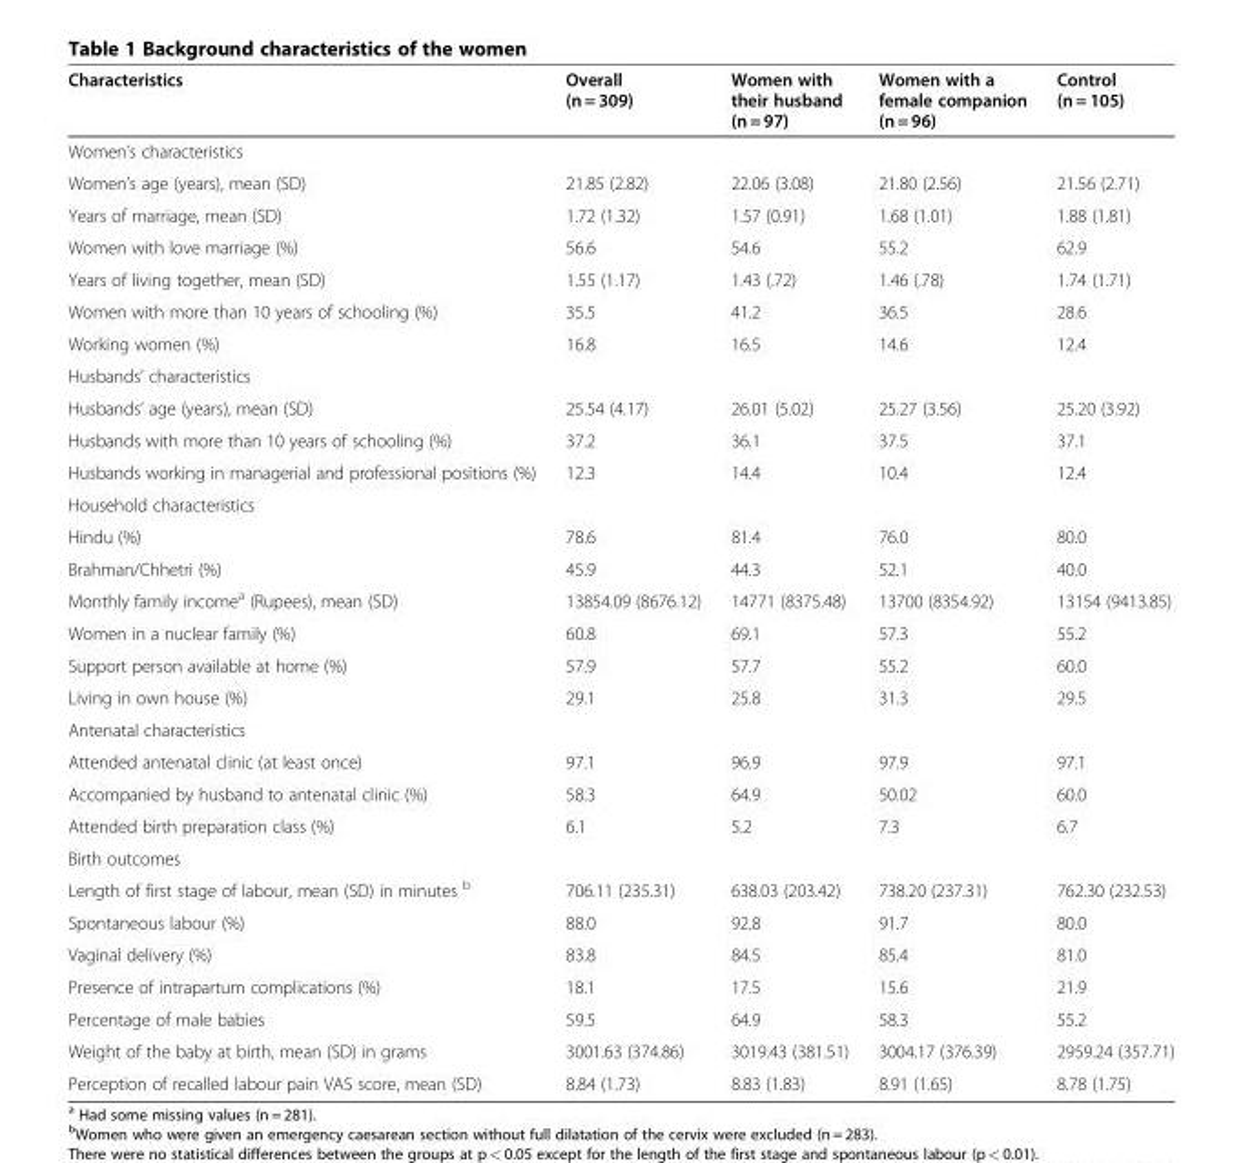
<table><thead><tr><td>Characteristics</td><td>Overall (n = 309)</td><td>Women with their husband (n = 97)</td><td>Women with a female companion (n = 96)</td><td>Control (n = 105)</td></tr></thead><tbody><tr><td colspan="5">Women’s characteristics</td></tr><tr><td>Women’s age (years), mean (SD)</td><td>21.85 (2.82)</td><td>22.06 (3.08)</td><td>21.80 (2.56)</td><td>21.56 (2.71)</td></tr><tr><td>Years of marriage, mean (SD)</td><td>1.72 (1.32)</td><td>1.57 (0.91)</td><td>1.68 (1.01)</td><td>1.88 (1.81)</td></tr><tr><td>Women with love marriage (%)</td><td>56.6</td><td>54.6</td><td>55.2</td><td>62.9</td></tr><tr><td>Years of living together, mean (SD)</td><td>1.55 (1.17)</td><td>1.43 (.72)</td><td>1.46 (.78)</td><td>1.74 (1.71)</td></tr><tr><td>Women with more than 10 years of schooling (%)</td><td>35.5</td><td>41.2</td><td>36.5</td><td>28.6</td></tr><tr><td>Working women (%)</td><td>16.8</td><td>16.5</td><td>14.6</td><td>12.4</td></tr><tr><td colspan="5">Husbands’ characteristics</td></tr><tr><td>Husbands’ age (years), mean (SD)</td><td>25.54 (4.17)</td><td>26.01 (5.02)</td><td>25.27 (3.56)</td><td>25.20 (3.92)</td></tr><tr><td>Husbands with more than 10 years of schooling (%)</td><td>37.2</td><td>36.1</td><td>37.5</td><td>37.1</td></tr><tr><td>Husbands working in managerial and professional positions (%)</td><td>12.3</td><td>14.4</td><td>10.4</td><td>12.4</td></tr><tr><td colspan="5">Household characteristics</td></tr><tr><td>Hindu (%)</td><td>78.6</td><td>81.4</td><td>76.0</td><td>80.0</td></tr><tr><td>Brahman/Chhetri (%)</td><td>45.9</td><td>44.3</td><td>52.1</td><td>40.0</td></tr><tr><td>Monthly family income<sup>a</sup> (Rupees), mean (SD)</td><td>13854.09 (8676.12)</td><td>14771 (8375.48)</td><td>13700 (8354.92)</td><td>13154 (9413.85)</td></tr><tr><td>Women in a nuclear family (%)</td><td>60.8</td><td>69.1</td><td>57.3</td><td>55.2</td></tr><tr><td>Support person available at home (%)</td><td>57.9</td><td>57.7</td><td>55.2</td><td>60.0</td></tr><tr><td>Living in own house (%)</td><td>29.1</td><td>25.8</td><td>31.3</td><td>29.5</td></tr><tr><td colspan="5">Antenatal characteristics</td></tr><tr><td>Attended antenatal clinic (at least once)</td><td>97.1</td><td>96.9</td><td>97.9</td><td>97.1</td></tr><tr><td>Accompanied by husband to antenatal clinic (%)</td><td>58.3</td><td>64.9</td><td>50.02</td><td>60.0</td></tr><tr><td>Attended birth preparation class (%)</td><td>6.1</td><td>5.2</td><td>7.3</td><td>6.7</td></tr><tr><td colspan="5">Birth outcomes</td></tr><tr><td>Length of first stage of labour, mean (SD) in minutes <sup>b</sup></td><td>706.11 (235.31)</td><td>638.03 (203.42)</td><td>738.20 (237.31)</td><td>762.30 (232.53)</td></tr><tr><td>Spontaneous labour (%)</td><td>88.0</td><td>92.8</td><td>91.7</td><td>80.0</td></tr><tr><td>Vaginal delivery (%)</td><td>83.8</td><td>84.5</td><td>85.4</td><td>81.0</td></tr><tr><td>Presence of intrapartum complications (%)</td><td>18.1</td><td>17.5</td><td>15.6</td><td>21.9</td></tr><tr><td>Percentage of male babies</td><td>59.5</td><td>64.9</td><td>58.3</td><td>55.2</td></tr><tr><td>Weight of the baby at birth, mean (SD) in grams</td><td>3001.63 (374.86)</td><td>3019.43 (381.51)</td><td>3004.17 (376.39)</td><td>2959.24 (357.71)</td></tr><tr><td>Perception of recalled labour pain VAS score, mean (SD)</td><td>8.84 (1.73)</td><td>8.83 (1.83)</td><td>8.91 (1.65)</td><td>8.78 (1.75)</td></tr></tbody></table>